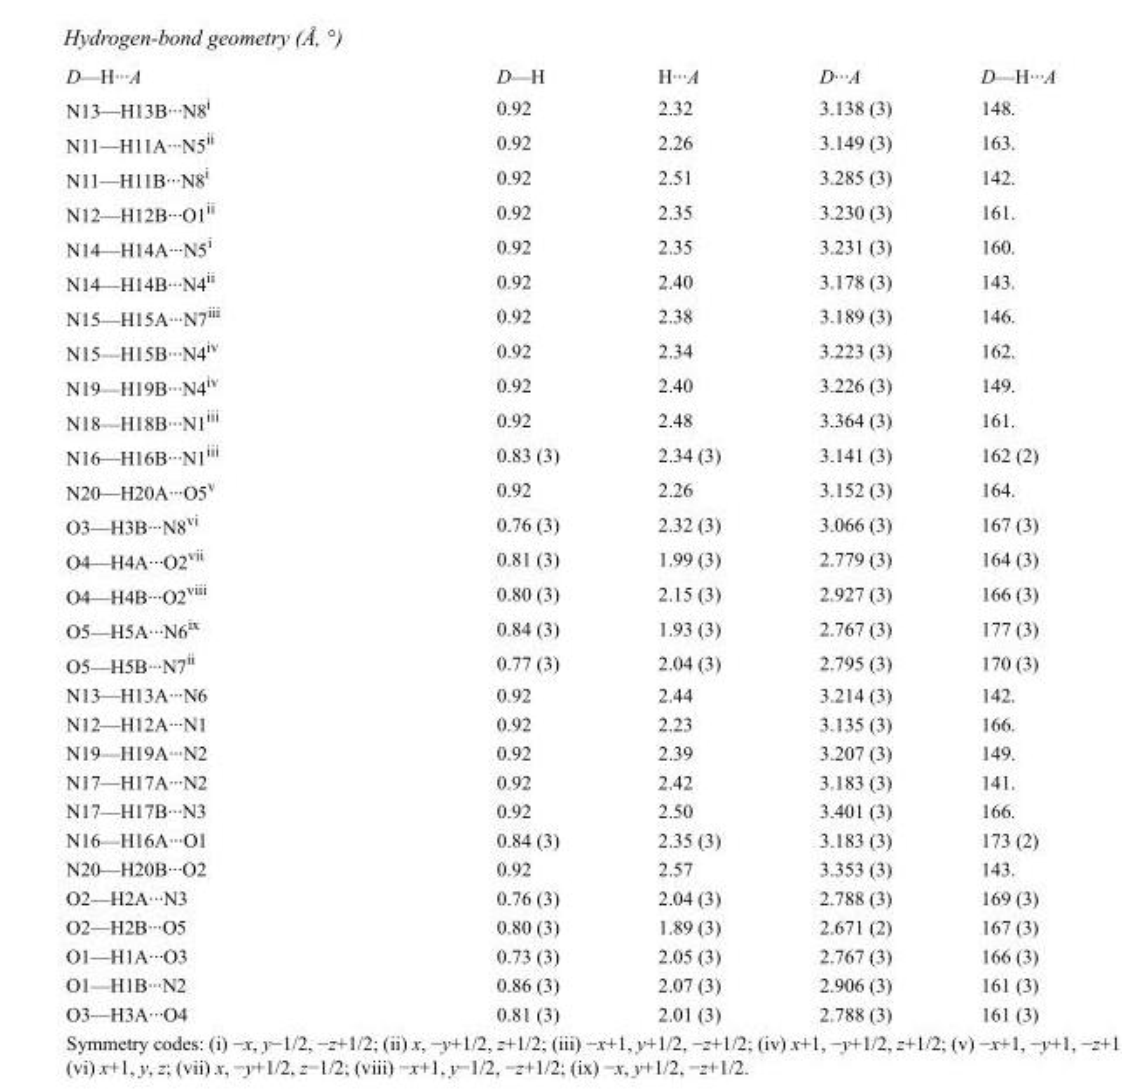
<table><tbody><tr><td>D—H···A</td><td>D—H</td><td>H···A</td><td>D···A</td><td>D—H···A</td></tr><tr><td>N13—H13B···N8<sup>i</sup></td><td>0.92</td><td>2.32</td><td>3.138 (3)</td><td>148.</td></tr><tr><td>N11—H11A···N5<sup>ii</sup></td><td>0.92</td><td>2.26</td><td>3.149 (3)</td><td>163.</td></tr><tr><td>N11—H11B···N8<sup>i</sup></td><td>0.92</td><td>2.51</td><td>3.285 (3)</td><td>142.</td></tr><tr><td>N12—H12B···O1<sup>ii</sup></td><td>0.92</td><td>2.35</td><td>3.230 (3)</td><td>161.</td></tr><tr><td>N14—H14A···N5<sup>i</sup></td><td>0.92</td><td>2.35</td><td>3.231 (3)</td><td>160.</td></tr><tr><td>N14—H14B···N4<sup>ii</sup></td><td>0.92</td><td>2.40</td><td>3.178 (3)</td><td>143.</td></tr><tr><td>N15—H15A···N7<sup>iii</sup></td><td>0.92</td><td>2.38</td><td>3.189 (3)</td><td>146.</td></tr><tr><td>N15—H15B···N4<sup>iv</sup></td><td>0.92</td><td>2.34</td><td>3.223 (3)</td><td>162.</td></tr><tr><td>N19—H19B···N4<sup>iv</sup></td><td>0.92</td><td>2.40</td><td>3.226 (3)</td><td>149.</td></tr><tr><td>N18—H18B···N1<sup>iii</sup></td><td>0.92</td><td>2.48</td><td>3.364 (3)</td><td>161.</td></tr><tr><td>N16—H16B···N1<sup>iii</sup></td><td>0.83 (3)</td><td>2.34 (3)</td><td>3.141 (3)</td><td>162 (2)</td></tr><tr><td>N20—H20A···O5<sup>v</sup></td><td>0.92</td><td>2.26</td><td>3.152 (3)</td><td>164.</td></tr><tr><td>O3—H3B···N8<sup>vi</sup></td><td>0.76 (3)</td><td>2.32 (3)</td><td>3.066 (3)</td><td>167 (3)</td></tr><tr><td>O4—H4A···O2<sup>vii</sup></td><td>0.81 (3)</td><td>1.99 (3)</td><td>2.779 (3)</td><td>164 (3)</td></tr><tr><td>O4—H4B···O2<sup>viii</sup></td><td>0.80 (3)</td><td>2.15 (3)</td><td>2.927 (3)</td><td>166 (3)</td></tr><tr><td>O5—H5A···N6<sup>ix</sup></td><td>0.84 (3)</td><td>1.93 (3)</td><td>2.767 (3)</td><td>177 (3)</td></tr><tr><td>O5—H5B···N7<sup>ii</sup></td><td>0.77 (3)</td><td>2.04 (3)</td><td>2.795 (3)</td><td>170 (3)</td></tr><tr><td>N13—H13A···N6</td><td>0.92</td><td>2.44</td><td>3.214 (3)</td><td>142.</td></tr><tr><td>N12—H12A···N1</td><td>0.92</td><td>2.23</td><td>3.135 (3)</td><td>166.</td></tr><tr><td>N19—H19A···N2</td><td>0.92</td><td>2.39</td><td>3.207 (3)</td><td>149.</td></tr><tr><td>N17—H17A···N2</td><td>0.92</td><td>2.42</td><td>3.183 (3)</td><td>141.</td></tr><tr><td>N17—H17B···N3</td><td>0.92</td><td>2.50</td><td>3.401 (3)</td><td>166.</td></tr><tr><td>N16—H16A···O1</td><td>0.84 (3)</td><td>2.35 (3)</td><td>3.183 (3)</td><td>173 (2)</td></tr><tr><td>N20—H20B···O2</td><td>0.92</td><td>2.57</td><td>3.353 (3)</td><td>143.</td></tr><tr><td>O2—H2A···N3</td><td>0.76 (3)</td><td>2.04 (3)</td><td>2.788 (3)</td><td>169 (3)</td></tr><tr><td>O2—H2B···O5</td><td>0.80 (3)</td><td>1.89 (3)</td><td>2.671 (2)</td><td>167 (3)</td></tr><tr><td>O1—H1A···O3</td><td>0.73 (3)</td><td>2.05 (3)</td><td>2.767 (3)</td><td>166 (3)</td></tr><tr><td>O1—H1B···N2</td><td>0.86 (3)</td><td>2.07 (3)</td><td>2.906 (3)</td><td>161 (3)</td></tr><tr><td>O3—H3A···O4</td><td>0.81 (3)</td><td>2.01 (3)</td><td>2.788 (3)</td><td>161 (3)</td></tr></tbody></table>